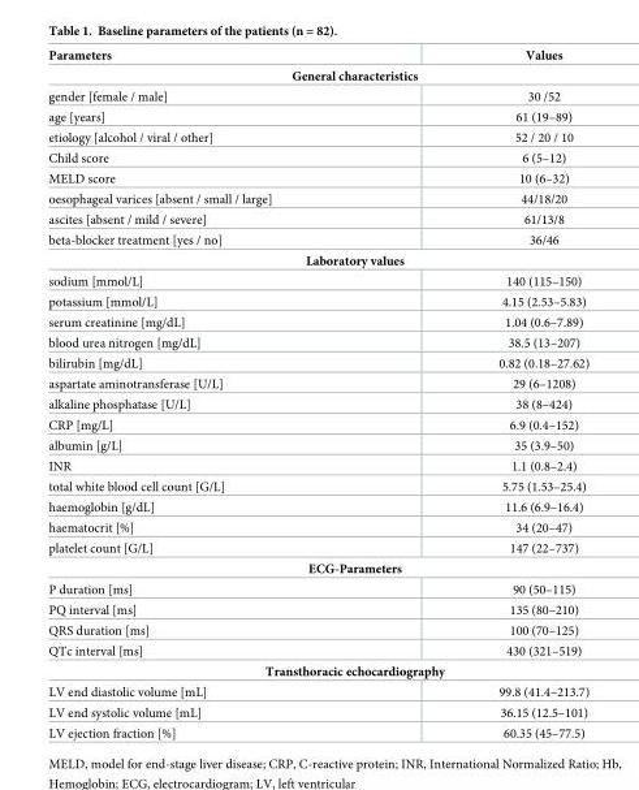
<table><thead><tr><td>Parameters</td><td>Values</td></tr></thead><tbody><tr><td colspan="2">General characteristics</td></tr><tr><td>gender [female / male]</td><td>30 /52</td></tr><tr><td>age [years]</td><td>61 (19–89)</td></tr><tr><td>etiology [alcohol / viral / other]</td><td>52 / 20 / 10</td></tr><tr><td>Child score</td><td>6 (5–12)</td></tr><tr><td>MELD score</td><td>10 (6–32)</td></tr><tr><td>oesophageal varices [absent / small / large]</td><td>44/18/20</td></tr><tr><td>ascites [absent / mild / severe]</td><td>61/13/8</td></tr><tr><td>beta-blocker treatment [yes / no]</td><td>36/46</td></tr><tr><td colspan="2">Laboratory values</td></tr><tr><td>sodium [mmol/L]</td><td>140 (115–150)</td></tr><tr><td>potassium [mmol/L]</td><td>4.15 (2.53–5.83)</td></tr><tr><td>serum creatinine [mg/dL]</td><td>1.04 (0.6–7.89)</td></tr><tr><td>blood urea nitrogen [mg/dL]</td><td>38.5 (13–207)</td></tr><tr><td>bilirubin [mg/dL]</td><td>0.82 (0.18–27.62)</td></tr><tr><td>aspartate aminotransferase [U/L]</td><td>29 (6–1208)</td></tr><tr><td>alkaline phosphatase [U/L]</td><td>38 (8–424)</td></tr><tr><td>CRP [mg/L]</td><td>6.9 (0.4–152)</td></tr><tr><td>albumin [g/L]</td><td>35 (3.9–50)</td></tr><tr><td>INR</td><td>1.1 (0.8–2.4)</td></tr><tr><td>total white blood cell count [G/L]</td><td>5.75 (1.53–25.4)</td></tr><tr><td>haemoglobin [g/dL]</td><td>11.6 (6.9–16.4)</td></tr><tr><td>haematocrit [%]</td><td>34 (20–47)</td></tr><tr><td>platelet count [G/L]</td><td>147 (22–737)</td></tr><tr><td colspan="2">ECG-Parameters</td></tr><tr><td>P duration [ms]</td><td>90 (50–115)</td></tr><tr><td>PQ interval [ms]</td><td>135 (80–210)</td></tr><tr><td>QRS duration [ms]</td><td>100 (70–125)</td></tr><tr><td>QTc interval [ms]</td><td>430 (321–519)</td></tr><tr><td colspan="2">Transthoracic echocardiography</td></tr><tr><td>LV end diastolic volume [mL]</td><td>99.8 (41.4–213.7)</td></tr><tr><td>LV end systolic volume [mL]</td><td>36.15 (12.5–101)</td></tr><tr><td>LV ejection fraction [%]</td><td>60.35 (45–77.5)</td></tr></tbody></table>